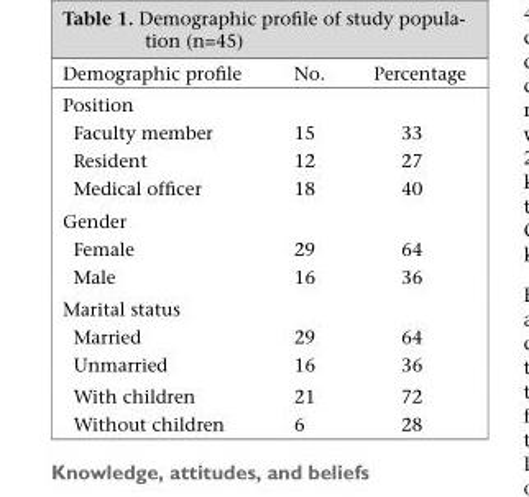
<table><thead><tr><td>Demographic profile</td><td>No.</td><td>Percentage</td></tr></thead><tbody><tr><td colspan="3">Position</td></tr><tr><td>Faculty member</td><td>15</td><td>33</td></tr><tr><td>Resident</td><td>12</td><td>27</td></tr><tr><td>Medical officer</td><td>18</td><td>40</td></tr><tr><td colspan="3">Gender</td></tr><tr><td>Female</td><td>29</td><td>64</td></tr><tr><td>Male</td><td>16</td><td>36</td></tr><tr><td colspan="3">Marital status</td></tr><tr><td>Married</td><td>29</td><td>64</td></tr><tr><td>Unmarried</td><td>16</td><td>36</td></tr><tr><td>With children</td><td>21</td><td>72</td></tr><tr><td>Without children</td><td>6</td><td>28</td></tr></tbody></table>